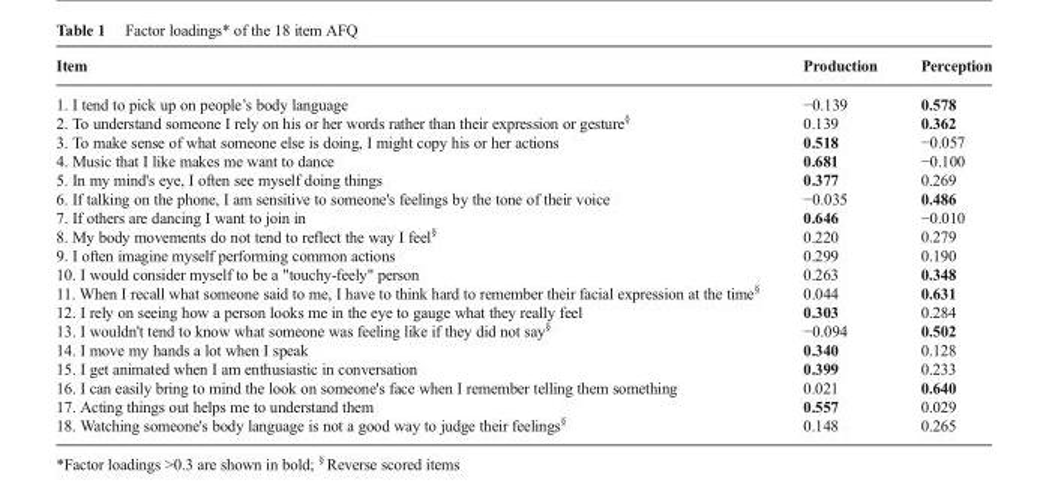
<table><thead><tr><td>Item</td><td>Production</td><td>Perception</td></tr></thead><tbody><tr><td>1. I tend to pick up on people’s body language 2. To understand someone I rely on his or her words rather than their expression or gesture<sup>§</sup> 3. To make sense of what someone else is doing, I might copy his or her actions 4. Music that I like makes me want to dance 5. In my mind&#x27;s eye, I often see myself doing things 6. If talking on the phone, I am sensitive to someone&#x27;s feelings by the tone of their voice 7. If others are dancing I want to join in 8. My body movements do not tend to reflect the way I feel<sup>§</sup> 9. I often imagine myself performing common actions 10. I would consider myself to be a &quot;touchy-feely&quot; person 11. When I recall what someone said to me, I have to think hard to remember their facial expression at the time<sup>§</sup> 12. I rely on seeing how a person looks me in the eye to gauge what they really feel 13. I wouldn&#x27;t tend to know what someone was feeling like if they did not say<sup>§</sup> 14. I move my hands a lot when I speak 15. I get animated when I am enthusiastic in conversation 16. I can easily bring to mind the look on someone&#x27;s face when I remember telling them something 17. Acting things out helps me to understand them 18. Watching someone&#x27;s body language is not a good way to judge their feelings<sup>§</sup></td><td>−0.139 0.139 0.518 0.681 0.377 −0.035 0.646 0.220 0.299 0.263 0.044 0.303 −0.094 0.340 0.399 0.021 0.557 0.148</td><td>0.578 0.362 −0.057 −0.100 0.269 0.486 −0.010 0.279 0.190 0.348 0.631 0.284 0.502 0.128 0.233 0.640 0.029 0.265</td></tr></tbody></table>